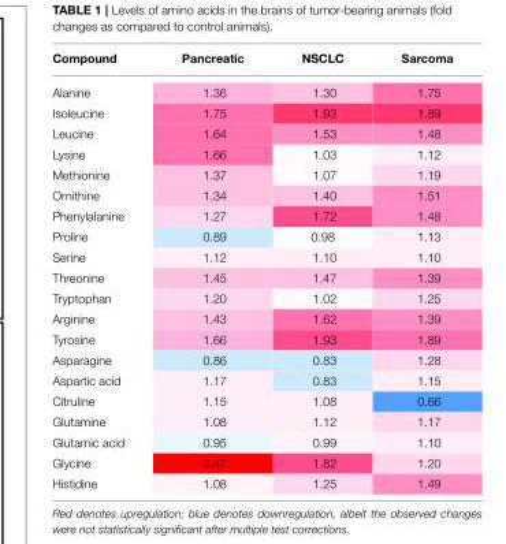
<table><thead><tr><td>Compound</td><td>Pancreatic</td><td>NSCLC</td><td>Sarcoma</td></tr></thead><tbody><tr><td>Alanine</td><td>1.36</td><td>1.30</td><td>1.75</td></tr><tr><td>Isoleucine</td><td>1.75</td><td>1.93</td><td>1.89</td></tr><tr><td>Leucine</td><td>1.64</td><td>1.53</td><td>1.48</td></tr><tr><td>Lysine</td><td>1.66</td><td>1.03</td><td>1.12</td></tr><tr><td>Methionine</td><td>1.37</td><td>1.07</td><td>1.19</td></tr><tr><td>Ornithine</td><td>1.34</td><td>1.40</td><td>1.51</td></tr><tr><td>Phenylalanine</td><td>1.27</td><td>1.72</td><td>1.48</td></tr><tr><td>Proline</td><td>0.89</td><td>0.98</td><td>1.13</td></tr><tr><td>Serine</td><td>1.12</td><td>1.10</td><td>1.10</td></tr><tr><td>Threonine</td><td>1.45</td><td>1.47</td><td>1.39</td></tr><tr><td>Tryptophan</td><td>1.20</td><td>1.02</td><td>1.25</td></tr><tr><td>Arginine</td><td>1.43</td><td>1.62</td><td>1.39</td></tr><tr><td>Tyrosine</td><td>1.66</td><td>1.93</td><td>1.89</td></tr><tr><td>Asparagine</td><td>0.86</td><td>0.83</td><td>1.28</td></tr><tr><td>Aspartic acid</td><td>1.17</td><td>0.83</td><td>1.15</td></tr><tr><td>Citruline</td><td>1.15</td><td>1.08</td><td>0.66</td></tr><tr><td>Glutamine</td><td>1.08</td><td>1.12</td><td>1.17</td></tr><tr><td>Glutamic acid</td><td>0.95</td><td>0.99</td><td>1.10</td></tr><tr><td>Glycine</td><td>2.47</td><td>1.82</td><td>1.20</td></tr><tr><td>Histidine</td><td>1.08</td><td>1.25</td><td>1.49</td></tr></tbody></table>